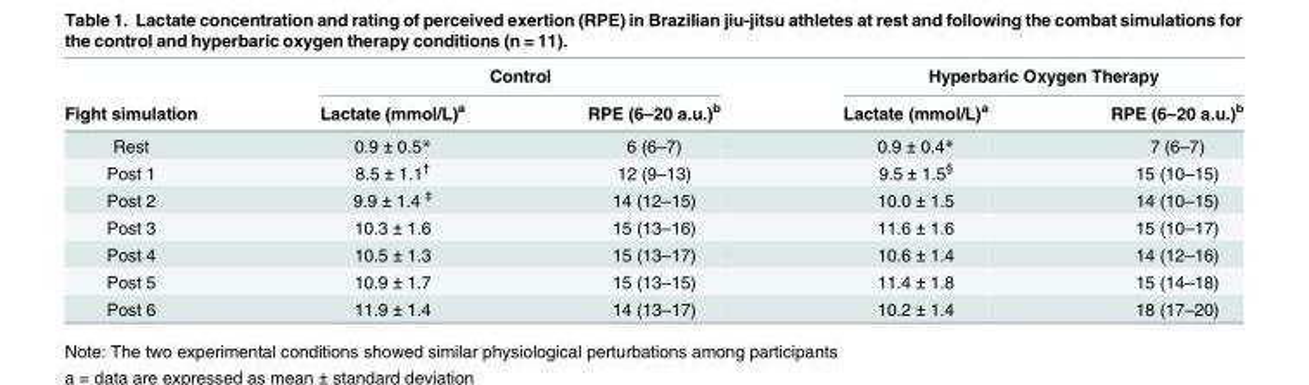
<table><thead><tr><td rowspan="2">Fight simulation</td><td colspan="2">Control</td><td colspan="2">Hyperbaric Oxygen Therapy</td></tr><tr><td>Lactate (mmol/L)<sup>a</sup></td><td>RPE (6–20 a.u.)<sup>b</sup></td><td>Lactate (mmol/L)<sup>a</sup></td><td>RPE (6–20 a.u.)<sup>b</sup></td></tr></thead><tbody><tr><td>Rest</td><td>0.9 ± 0.5*</td><td>6 (6–7)</td><td>0.9 ± 0.4*</td><td>7 (6–7)</td></tr><tr><td>Post 1</td><td>8.5 ± 1.1<sup>†</sup></td><td>12 (9–13)</td><td>9.5 ± 1.5<sup>§</sup></td><td>15 (10–15)</td></tr><tr><td>Post 2</td><td>9.9 ± 1.4 <sup>‡</sup></td><td>14 (12–15)</td><td>10.0 ± 1.5</td><td>14 (10–15)</td></tr><tr><td>Post 3</td><td>10.3 ± 1.6</td><td>15 (13–16)</td><td>11.6 ± 1.6</td><td>15 (10–17)</td></tr><tr><td>Post 4</td><td>10.5 ± 1.3</td><td>15 (13–17)</td><td>10.6 ± 1.4</td><td>14 (12–16)</td></tr><tr><td>Post 5</td><td>10.9 ± 1.7</td><td>15 (13–15)</td><td>11.4 ± 1.8</td><td>15 (14–18)</td></tr><tr><td>Post 6</td><td>11.9 ± 1.4</td><td>14 (13–17)</td><td>10.2 ± 1.4</td><td>18 (17–20)</td></tr></tbody></table>